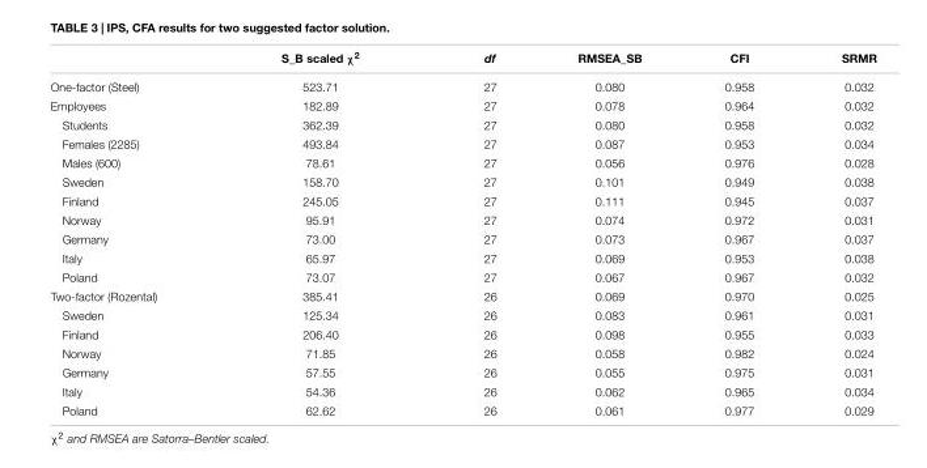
<table><thead><tr><td></td><td>S_B scaled χ<sup>2</sup></td><td>df</td><td>RMSEA_SB</td><td>CFI</td><td>SRMR</td></tr></thead><tbody><tr><td>One-factor (Steel)</td><td>523.71</td><td>27</td><td>0.080</td><td>0.958</td><td>0.032</td></tr><tr><td>Employees</td><td>182.89</td><td>27</td><td>0.078</td><td>0.964</td><td>0.032</td></tr><tr><td>Students</td><td>362.39</td><td>27</td><td>0.080</td><td>0.958</td><td>0.032</td></tr><tr><td>Females (2285)</td><td>493.84</td><td>27</td><td>0.087</td><td>0.953</td><td>0.034</td></tr><tr><td>Males (600)</td><td>78.61</td><td>27</td><td>0.056</td><td>0.976</td><td>0.028</td></tr><tr><td>Sweden</td><td>158.70</td><td>27</td><td>0.101</td><td>0.949</td><td>0.038</td></tr><tr><td>Finland</td><td>245.05</td><td>27</td><td>0.111</td><td>0.945</td><td>0.037</td></tr><tr><td>Norway</td><td>95.91</td><td>27</td><td>0.074</td><td>0.972</td><td>0.031</td></tr><tr><td>Germany</td><td>73.00</td><td>27</td><td>0.073</td><td>0.967</td><td>0.037</td></tr><tr><td>Italy</td><td>65.97</td><td>27</td><td>0.069</td><td>0.953</td><td>0.038</td></tr><tr><td>Poland</td><td>73.07</td><td>27</td><td>0.067</td><td>0.967</td><td>0.032</td></tr><tr><td>Two-factor (Rozental)</td><td>385.41</td><td>26</td><td>0.069</td><td>0.970</td><td>0.025</td></tr><tr><td>Sweden</td><td>125.34</td><td>26</td><td>0.083</td><td>0.961</td><td>0.031</td></tr><tr><td>Finland</td><td>206.40</td><td>26</td><td>0.098</td><td>0.955</td><td>0.033</td></tr><tr><td>Norway</td><td>71.85</td><td>26</td><td>0.058</td><td>0.982</td><td>0.024</td></tr><tr><td>Germany</td><td>57.55</td><td>26</td><td>0.055</td><td>0.975</td><td>0.031</td></tr><tr><td>Italy</td><td>54.36</td><td>26</td><td>0.062</td><td>0.965</td><td>0.034</td></tr><tr><td>Poland</td><td>62.62</td><td>26</td><td>0.061</td><td>0.977</td><td>0.029</td></tr></tbody></table>